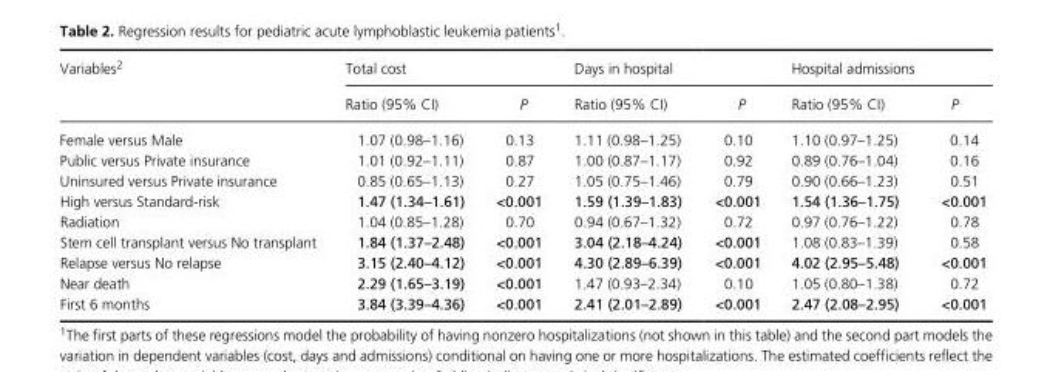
<table><thead><tr><td rowspan="2">Variables2</td><td colspan="2">Total cost</td><td colspan="2">Days in hospital</td><td colspan="2">Hospital admissions</td></tr><tr><td>Ratio (95% CI)</td><td>P</td><td>Ratio (95% CI)</td><td>P</td><td>Ratio (95% CI)</td><td>P</td></tr></thead><tbody><tr><td>Female versus Male</td><td>1.07 (0.98–1.16)</td><td>0.13</td><td>1.11 (0.98–1.25)</td><td>0.10</td><td>1.10 (0.97–1.25)</td><td>0.14</td></tr><tr><td>Public versus Private insurance</td><td>1.01 (0.92–1.11)</td><td>0.87</td><td>1.00 (0.87–1.17)</td><td>0.92</td><td>0.89 (0.76–1.04)</td><td>0.16</td></tr><tr><td>Uninsured versus Private insurance</td><td>0.85 (0.65–1.13)</td><td>0.27</td><td>1.05 (0.75–1.46)</td><td>0.79</td><td>0.90 (0.66–1.23)</td><td>0.51</td></tr><tr><td>High versus Standard- risk</td><td>1.47 (1.34–1.61)</td><td>&lt;0.001</td><td>1.59 (1.39–1.83)</td><td>&lt;0.001</td><td>1.54 (1.36–1.75)</td><td>&lt;0.001</td></tr><tr><td>Radiation</td><td>1.04 (0.85–1.28)</td><td>0.70</td><td>0.94 (0.67–1.32)</td><td>0.72</td><td>0.97 (0.76–1.22)</td><td>0.78</td></tr><tr><td>Stem cell transplant versus No transplant</td><td>1.84 (1.37–2.48)</td><td>&lt;0.001</td><td>3.04 (2.18–4.24)</td><td>&lt;0.001</td><td>1.08 (0.83–1.39)</td><td>0.58</td></tr><tr><td>Relapse versus No relapse</td><td>3.15 (2.40–4.12)</td><td>&lt;0.001</td><td>4.30 (2.89–6.39)</td><td>&lt;0.001</td><td>4.02 (2.95–5.48)</td><td>&lt;0.001</td></tr><tr><td>Near death</td><td>2.29 (1.65–3.19)</td><td>&lt;0.001</td><td>1.47 (0.93–2.34)</td><td>0.10</td><td>1.05 (0.80–1.38)</td><td>0.72</td></tr><tr><td>First 6 months</td><td>3.84 (3.39–4.36)</td><td>&lt;0.001</td><td>2.41 (2.01–2.89)</td><td>&lt;0.001</td><td>2.47 (2.08–2.95)</td><td>&lt;0.001</td></tr></tbody></table>